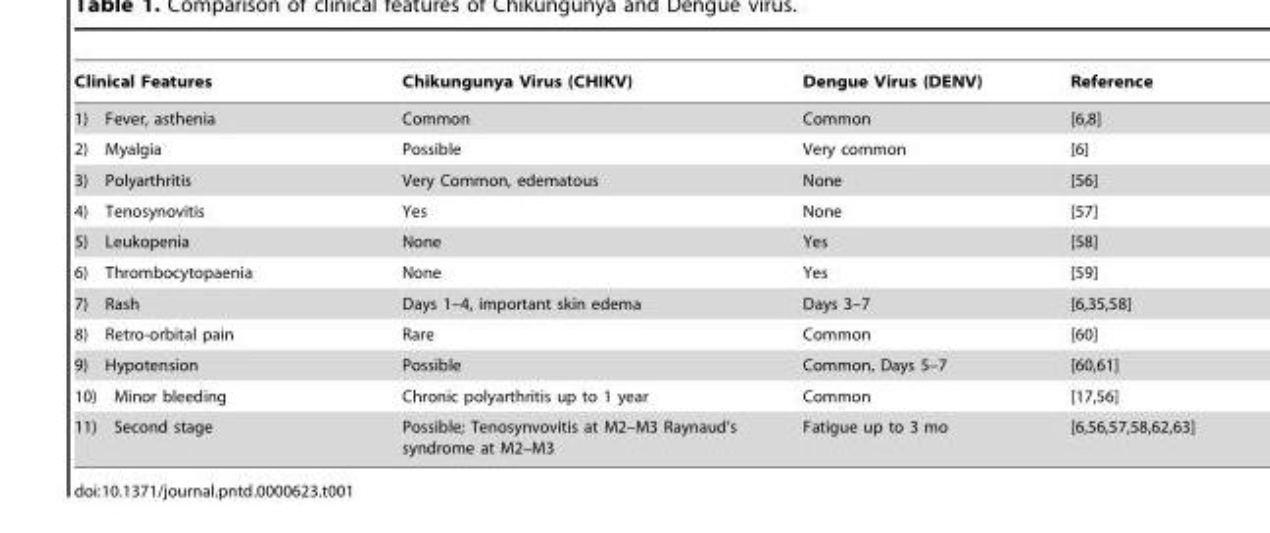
<table><thead><tr><td>Clinical Features</td><td>Chikungunya Virus (CHIKV)</td><td>Dengue Virus (DENV)</td><td>Reference</td></tr></thead><tbody><tr><td>1) Fever, asthenia</td><td>Common</td><td>Common</td><td>[6,8]</td></tr><tr><td>2) Myalgia</td><td>Possible</td><td>Very common</td><td>[6]</td></tr><tr><td>3) Polyarthritis</td><td>Very Common, edematous</td><td>None</td><td>[56]</td></tr><tr><td>4) Tenosynovitis</td><td>Yes</td><td>None</td><td>[57]</td></tr><tr><td>5) Leukopenia</td><td>None</td><td>Yes</td><td>[58]</td></tr><tr><td>6) Thrombocytopaenia</td><td>None</td><td>Yes</td><td>[59]</td></tr><tr><td>7) Rash</td><td>Days 1–4, important skin edema</td><td>Days 3–7</td><td>[6,35,58]</td></tr><tr><td>8) Retro-orbital pain</td><td>Rare</td><td>Common</td><td>[60]</td></tr><tr><td>9) Hypotension</td><td>Possible</td><td>Common, Days 5–7</td><td>[60,61]</td></tr><tr><td>10) Minor bleeding</td><td>Chronic polyarthritis up to 1 year</td><td>Common</td><td>[17,56]</td></tr><tr><td>11) Second stage</td><td>Possible; Tenosynvovitis at M2–M3 Raynaud’s syndrome at M2–M3</td><td>Fatigue up to 3 mo</td><td>[6,56,57,58,62,63]</td></tr></tbody></table>